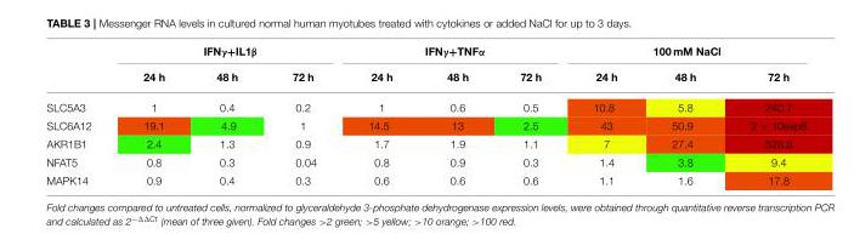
<table><thead><tr><td rowspan="2"></td><td colspan="3">IFNγ+IL1β</td><td colspan="3">IFNγ+TNFα</td><td colspan="3">100 mM NaCl</td></tr><tr><td>24 h</td><td>48 h</td><td>72 h</td><td>24 h</td><td>48 h</td><td>72 h</td><td>24 h</td><td>48 h</td><td>72 h</td></tr></thead><tbody><tr><td>SLC5A3</td><td>1</td><td>0.4</td><td>0.2</td><td>1</td><td>0.6</td><td>0.5</td><td>10.8</td><td>5.8</td><td>240.7</td></tr><tr><td>SLC6A12</td><td>19.1</td><td>4.9</td><td>1</td><td>14.5</td><td>13</td><td>2.5</td><td>43</td><td>50.9</td><td>2 × 10exp8</td></tr><tr><td>AKR1B1</td><td>2.4</td><td>1.3</td><td>0.9</td><td>1.7</td><td>1.9</td><td>1.1</td><td>7</td><td>27.4</td><td>528.8</td></tr><tr><td>NFAT5</td><td>0.8</td><td>0.3</td><td>0.04</td><td>0.8</td><td>0.9</td><td>0.3</td><td>1.4</td><td>3.8</td><td>9.4</td></tr><tr><td>MAPK14</td><td>0.9</td><td>0.4</td><td>0.3</td><td>0.6</td><td>0.6</td><td>0.6</td><td>1.1</td><td>1.6</td><td>17.8</td></tr></tbody></table>